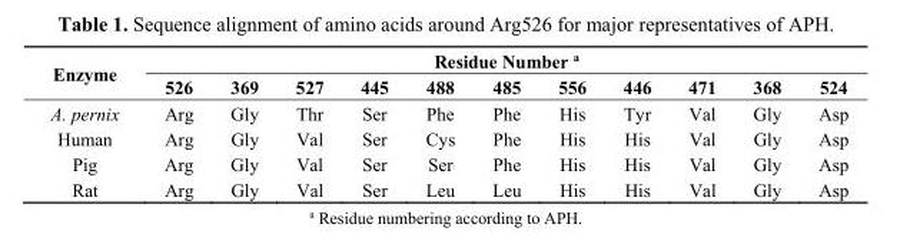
<table><thead><tr><td rowspan="2">Enzyme</td><td colspan="11">Residue Number <sup>a</sup></td></tr><tr><td>526</td><td>369</td><td>527</td><td>445</td><td>488</td><td>485</td><td>556</td><td>446</td><td>471</td><td>368</td><td>524</td></tr></thead><tbody><tr><td>A. pernix</td><td>Arg</td><td>Gly</td><td>Thr</td><td>Ser</td><td>Phe</td><td>Phe</td><td>His</td><td>Tyr</td><td>Val</td><td>Gly</td><td>Asp</td></tr><tr><td>Human</td><td>Arg</td><td>Gly</td><td>Val</td><td>Ser</td><td>Cys</td><td>Phe</td><td>His</td><td>His</td><td>Val</td><td>Gly</td><td>Asp</td></tr><tr><td>Pig</td><td>Arg</td><td>Gly</td><td>Val</td><td>Ser</td><td>Ser</td><td>Phe</td><td>His</td><td>His</td><td>Val</td><td>Gly</td><td>Asp</td></tr><tr><td>Rat</td><td>Arg</td><td>Gly</td><td>Val</td><td>Ser</td><td>Leu</td><td>Leu</td><td>His</td><td>His</td><td>Val</td><td>Gly</td><td>Asp</td></tr></tbody></table>